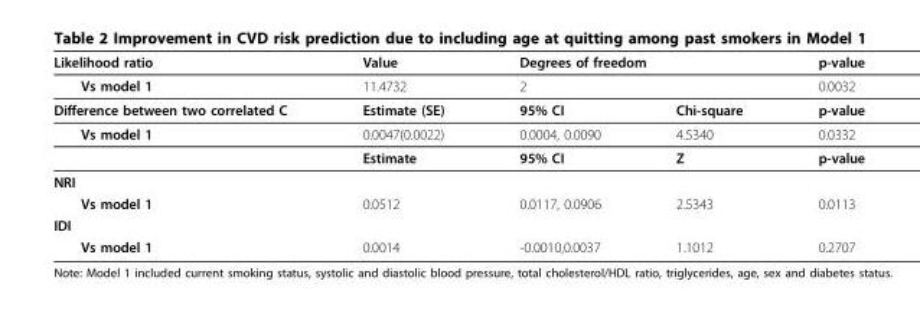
<table><thead><tr><td rowspan="3">Likelihood ratio Vs model 1 Difference between two correlated C</td><td rowspan="3">Value 11.4732 Estimate (SE)</td><td rowspan="2" colspan="2">Degrees of freedom 2</td><td rowspan="3">p-value 0.0032 p-value</td></tr><tr></tr><tr><td>95% CI</td><td>Chi-square</td></tr></thead><tbody><tr><td rowspan="2">Vs model 1</td><td>0.0047(0.0022)</td><td>0.0004, 0.0090</td><td>4.5340</td><td>0.0332</td></tr><tr><td>Estimate</td><td>95% CI</td><td>Z</td><td>p-value</td></tr><tr><td colspan="5">NRI</td></tr><tr><td>Vs model 1</td><td>0.0512</td><td>0.0117, 0.0906</td><td>2.5343</td><td>0.0113</td></tr><tr><td colspan="5">IDI</td></tr><tr><td>Vs model 1</td><td>0.0014</td><td>-0.0010,0.0037</td><td>1.1012</td><td>0.2707</td></tr></tbody></table>